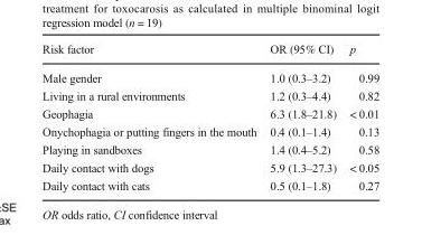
<table><thead><tr><td>Risk factor</td><td>OR (95% CI)</td><td>p</td></tr></thead><tbody><tr><td>Male gender</td><td>1.0 (0.3–3.2)</td><td>0.99</td></tr><tr><td>Living in a rural environments</td><td>1.2 (0.3–4.4)</td><td>0.82</td></tr><tr><td>Geophagia</td><td>6.3 (1.8–21.8)</td><td>&lt; 0.01</td></tr><tr><td>Onychophagia or putting fingers in the mouth</td><td>0.4 (0.1–1.4)</td><td>0.13</td></tr><tr><td>Playing in sandboxes</td><td>1.4 (0.4–5.2)</td><td>0.58</td></tr><tr><td>Daily contact with dogs</td><td>5.9 (1.3–27.3)</td><td>&lt; 0.05</td></tr><tr><td>Daily contact with cats</td><td>0.5 (0.1–1.8)</td><td>0.27</td></tr></tbody></table>